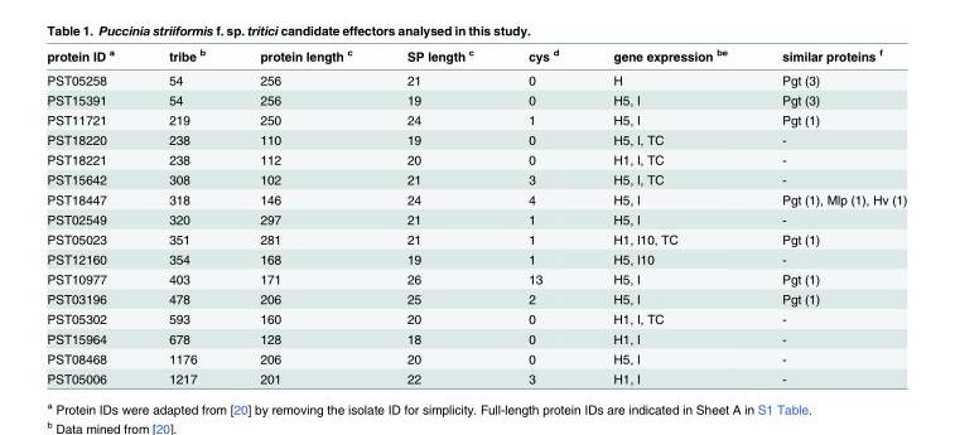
<table><thead><tr><td>protein ID <sup>a</sup></td><td>tribe <sup>b</sup></td><td>protein length <sup>c</sup></td><td>SP length <sup>c</sup></td><td>cys <sup>d</sup></td><td>gene expression <sup>be</sup></td><td>similar proteins <sup>f</sup></td></tr></thead><tbody><tr><td>PST05258</td><td>54</td><td>256</td><td>21</td><td>0</td><td>H</td><td>Pgt (3)</td></tr><tr><td>PST15391</td><td>54</td><td>256</td><td>19</td><td>0</td><td>H5, I</td><td>Pgt (3)</td></tr><tr><td>PST11721</td><td>219</td><td>250</td><td>24</td><td>1</td><td>H5, I</td><td>Pgt (1)</td></tr><tr><td>PST18220</td><td>238</td><td>110</td><td>19</td><td>0</td><td>H5, I, TC</td><td>-</td></tr><tr><td>PST18221</td><td>238</td><td>112</td><td>20</td><td>0</td><td>H1, I, TC</td><td>-</td></tr><tr><td>PST15642</td><td>308</td><td>102</td><td>21</td><td>3</td><td>H5, I, TC</td><td>-</td></tr><tr><td>PST18447</td><td>318</td><td>146</td><td>24</td><td>4</td><td>H5, I</td><td>Pgt (1), Mlp (1), Hv (1)</td></tr><tr><td>PST02549</td><td>320</td><td>297</td><td>21</td><td>1</td><td>H5, I</td><td>-</td></tr><tr><td>PST05023</td><td>351</td><td>281</td><td>21</td><td>1</td><td>H1, I10, TC</td><td>Pgt (1)</td></tr><tr><td>PST12160</td><td>354</td><td>168</td><td>19</td><td>1</td><td>H5, I10</td><td>-</td></tr><tr><td>PST10977</td><td>403</td><td>171</td><td>26</td><td>13</td><td>H5, I</td><td>Pgt (1)</td></tr><tr><td>PST03196</td><td>478</td><td>206</td><td>25</td><td>2</td><td>H5, I</td><td>Pgt (1)</td></tr><tr><td>PST05302</td><td>593</td><td>160</td><td>20</td><td>0</td><td>H1, I, TC</td><td>-</td></tr><tr><td>PST15964</td><td>678</td><td>128</td><td>18</td><td>0</td><td>H1, I</td><td>-</td></tr><tr><td>PST08468</td><td>1176</td><td>206</td><td>20</td><td>0</td><td>H5, I</td><td>-</td></tr><tr><td>PST05006</td><td>1217</td><td>201</td><td>22</td><td>3</td><td>H1, I</td><td>-</td></tr></tbody></table>